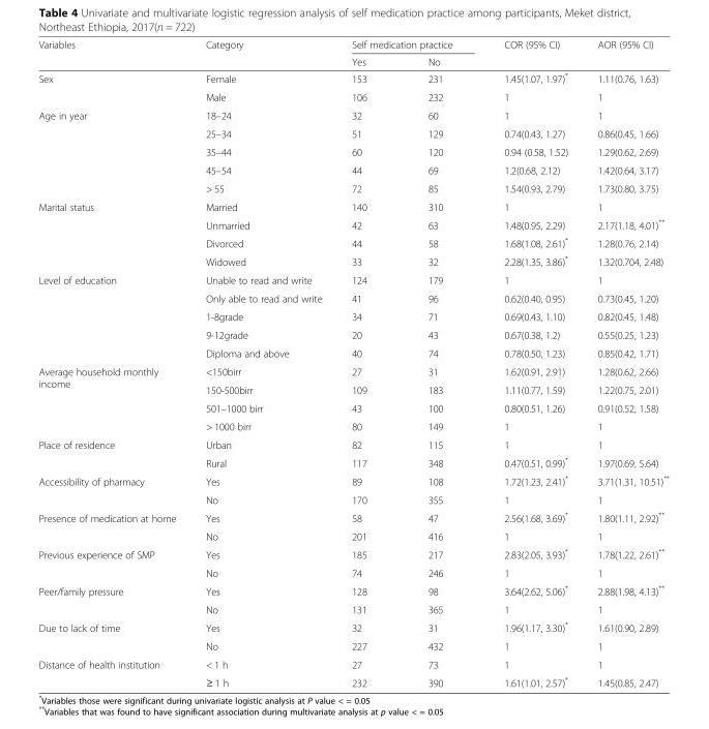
<table><thead><tr><td rowspan="2">Variables</td><td rowspan="2">Category</td><td colspan="2">Self medication practice</td><td rowspan="2">COR (95% CI)</td><td rowspan="2">AOR (95% CI)</td></tr><tr><td>Yes</td><td>No</td></tr></thead><tbody><tr><td rowspan="2">Sex</td><td>Female</td><td>153</td><td>231</td><td>1.45(1.07, 1.97)*</td><td>1.11(0.76, 1.63)</td></tr><tr><td>Male</td><td>106</td><td>232</td><td>1</td><td>1</td></tr><tr><td rowspan="5">Age in year</td><td>18–24</td><td>32</td><td>60</td><td>1</td><td>1</td></tr><tr><td>25–34</td><td>51</td><td>129</td><td>0.74(0.43, 1.27)</td><td>0.86(0.45, 1.66)</td></tr><tr><td>35–44</td><td>60</td><td>120</td><td>0.94 (0.58, 1.52)</td><td>1.29(0.62, 2.69)</td></tr><tr><td>45–54</td><td>44</td><td>69</td><td>1.2(0.68, 2.12)</td><td>1.42(0.64, 3.17)</td></tr><tr><td>&gt; 55</td><td>72</td><td>85</td><td>1.54(0.93, 2.79)</td><td>1.73(0.80, 3.75)</td></tr><tr><td rowspan="4">Marital status</td><td>Married</td><td>140</td><td>310</td><td>1</td><td>1</td></tr><tr><td>Unmarried</td><td>42</td><td>63</td><td>1.48(0.95, 2.29)</td><td>2.17(1.18, 4.01)**</td></tr><tr><td>Divorced</td><td>44</td><td>58</td><td>1.68(1.08, 2.61)*</td><td>1.28(0.76, 2.14)</td></tr><tr><td>Widowed</td><td>33</td><td>32</td><td>2.28(1.35, 3.86)*</td><td>1.32(0.704, 2.48)</td></tr><tr><td rowspan="5">Level of education</td><td>Unable to read and write</td><td>124</td><td>179</td><td>1</td><td>1</td></tr><tr><td>Only able to read and write</td><td>41</td><td>96</td><td>0.62(0.40, 0.95)</td><td>0.73(0.45, 1.20)</td></tr><tr><td>1-8grade</td><td>34</td><td>71</td><td>0.69(0.43, 1.10)</td><td>0.82(0.45, 1.48)</td></tr><tr><td>9-12grade</td><td>20</td><td>43</td><td>0.67(0.38, 1.2)</td><td>0.55(0.25, 1.23)</td></tr><tr><td>Diploma and above</td><td>40</td><td>74</td><td>0.78(0.50, 1.23)</td><td>0.85(0.42, 1.71)</td></tr><tr><td rowspan="4">Average household monthly income</td><td>&lt;150birr</td><td>27</td><td>31</td><td>1.62(0.91, 2.91)</td><td>1.28(0.62, 2.66)</td></tr><tr><td>150-500birr</td><td>109</td><td>183</td><td>1.11(0.77, 1.59)</td><td>1.22(0.75, 2.01)</td></tr><tr><td>501–1000 birr</td><td>43</td><td>100</td><td>0.80(0.51, 1.26)</td><td>0.91(0.52, 1.58)</td></tr><tr><td>&gt; 1000 birr</td><td>80</td><td>149</td><td>1</td><td>1</td></tr><tr><td rowspan="2">Place of residence</td><td>Urban</td><td>82</td><td>115</td><td>1</td><td>1</td></tr><tr><td>Rural</td><td>117</td><td>348</td><td>0.47(0.51, 0.99)*</td><td>1.97(0.69, 5.64)</td></tr><tr><td rowspan="2">Accessibility of pharmacy</td><td>Yes</td><td>89</td><td>108</td><td>1.72(1.23, 2.41)*</td><td>3.71(1.31, 10.51)**</td></tr><tr><td>No</td><td>170</td><td>355</td><td>1</td><td>1</td></tr><tr><td rowspan="2">Presence of medication at home</td><td>Yes</td><td>58</td><td>47</td><td>2.56(1.68, 3.69)*</td><td>1.80(1.11, 2.92)**</td></tr><tr><td>No</td><td>201</td><td>416</td><td>1</td><td>1</td></tr><tr><td rowspan="2">Previous experience of SMP</td><td>Yes</td><td>185</td><td>217</td><td>2.83(2.05, 3.93)*</td><td>1.78(1.22, 2.61)**</td></tr><tr><td>No</td><td>74</td><td>246</td><td>1</td><td>1</td></tr><tr><td rowspan="2">Peer/family pressure</td><td>Yes</td><td>128</td><td>98</td><td>3.64(2.62, 5.06)*</td><td>2.88(1.98, 4.13)**</td></tr><tr><td>No</td><td>131</td><td>365</td><td>1</td><td>1</td></tr><tr><td rowspan="2">Due to lack of time</td><td>Yes</td><td>32</td><td>31</td><td>1.96(1.17, 3.30)*</td><td>1.61(0.90, 2.89)</td></tr><tr><td>No</td><td>227</td><td>432</td><td>1</td><td>1</td></tr><tr><td rowspan="2">Distance of health institution</td><td>&lt; 1 h</td><td>27</td><td>73</td><td>1</td><td>1</td></tr><tr><td>≥ 1 h</td><td>232</td><td>390</td><td>1.61(1.01, 2.57)*</td><td>1.45(0.85, 2.47)</td></tr></tbody></table>